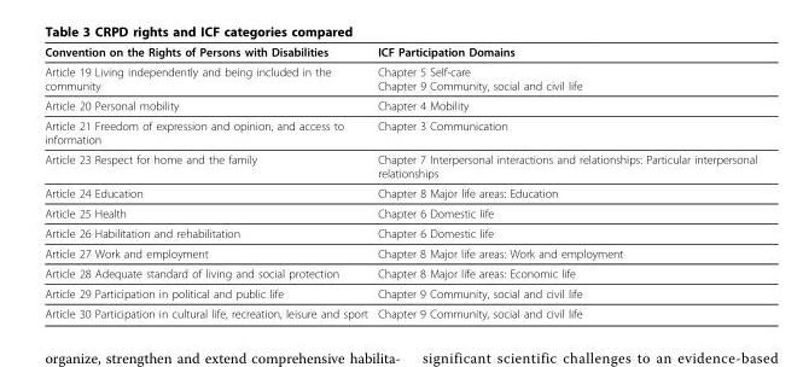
<table><thead><tr><td>Convention on the Rights of Persons with Disabilities</td><td>ICF Participation Domains</td></tr></thead><tbody><tr><td>Article 19 Living independently and being included in the community</td><td>Chapter 5 Self-care Chapter 9 Community, social and civil life</td></tr><tr><td>Article 20 Personal mobility</td><td>Chapter 4 Mobility</td></tr><tr><td>Article 21 Freedom of expression and opinion, and access to information</td><td>Chapter 3 Communication</td></tr><tr><td>Article 23 Respect for home and the family</td><td>Chapter 7 Interpersonal interactions and relationships: Particular interpersonal relationships</td></tr><tr><td>Article 24 Education</td><td>Chapter 8 Major life areas: Education</td></tr><tr><td>Article 25 Health</td><td>Chapter 6 Domestic life</td></tr><tr><td>Article 26 Habilitation and rehabilitation</td><td>Chapter 6 Domestic life</td></tr><tr><td>Article 27 Work and employment</td><td>Chapter 8 Major life areas: Work and employment</td></tr><tr><td>Article 28 Adequate standard of living and social protection</td><td>Chapter 8 Major life areas: Economic life</td></tr><tr><td>Article 29 Participation in political and public life</td><td>Chapter 9 Community, social and civil life</td></tr><tr><td>Article 30 Participation in cultural life, recreation, leisure and sport</td><td>Chapter 9 Community, social and civil life</td></tr></tbody></table>